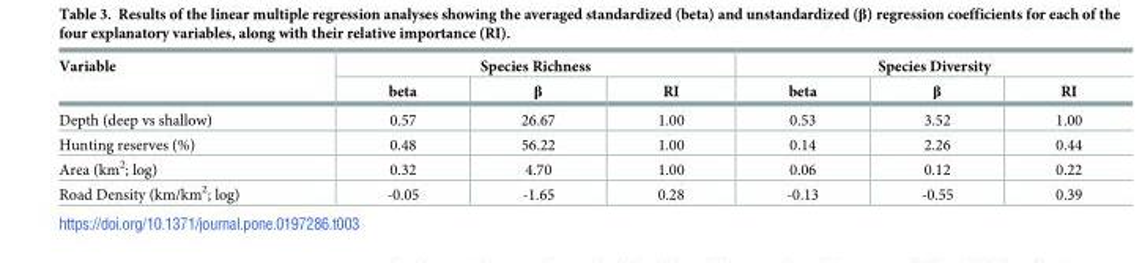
<table><thead><tr><td rowspan="2">Variable</td><td colspan="3">Species Richness</td><td colspan="3">Species Diversity</td></tr><tr><td>beta</td><td>β</td><td>RI</td><td>beta</td><td>β</td><td>RI</td></tr></thead><tbody><tr><td>Depth (deep vs shallow)</td><td>0.57</td><td>26.67</td><td>1.00</td><td>0.53</td><td>3.52</td><td>1.00</td></tr><tr><td>Hunting reserves (%)</td><td>0.48</td><td>56.22</td><td>1.00</td><td>0.14</td><td>2.26</td><td>0.44</td></tr><tr><td>Area (km<sup>2</sup>; log)</td><td>0.32</td><td>4.70</td><td>1.00</td><td>0.06</td><td>0.12</td><td>0.22</td></tr><tr><td>Road Density (km/km<sup>2</sup>; log)</td><td>-0.05</td><td>-1.65</td><td>0.28</td><td>-0.13</td><td>-0.55</td><td>0.39</td></tr></tbody></table>